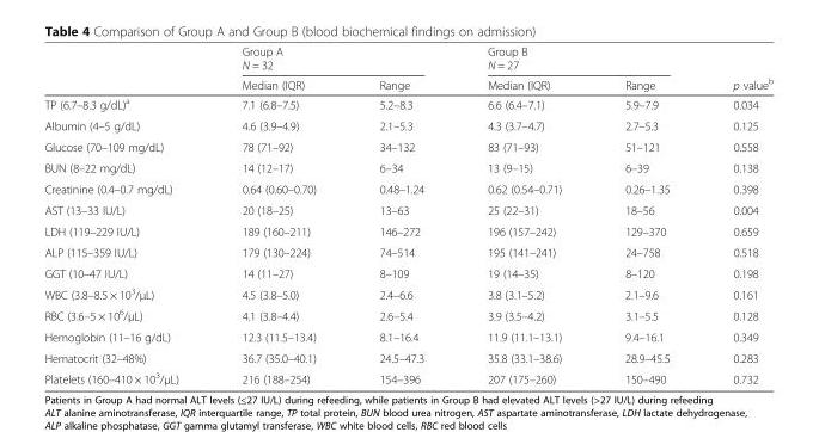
<table><thead><tr><td rowspan="3"></td><td rowspan="2" colspan="2">Group A N = 32</td><td rowspan="2" colspan="2">Group B N = 27</td><td rowspan="3">p value<sup>b</sup></td></tr><tr></tr><tr><td>Median (IQR)</td><td>Range</td><td>Median (IQR)</td><td>Range</td></tr></thead><tbody><tr><td>TP (6.7–8.3 g/dL)<sup>a</sup></td><td>7.1 (6.8–7.5)</td><td>5.2–8.3</td><td>6.6 (6.4–7.1)</td><td>5.9–7.9</td><td>0.034</td></tr><tr><td>Albumin (4–5 g/dL)</td><td>4.6 (3.9–4.9)</td><td>2.1–5.3</td><td>4.3 (3.7–4.7)</td><td>2.7–5.3</td><td>0.125</td></tr><tr><td>Glucose (70–109 mg/dL)</td><td>78 (71–92)</td><td>34–132</td><td>83 (71–93)</td><td>51–121</td><td>0.558</td></tr><tr><td>BUN (8–22 mg/dL)</td><td>14 (12–17)</td><td>6–34</td><td>13 (9–15)</td><td>6–39</td><td>0.138</td></tr><tr><td>Creatinine (0.4–0.7 mg/dL)</td><td>0.64 (0.60–0.70)</td><td>0.48–1.24</td><td>0.62 (0.54–0.71)</td><td>0.26–1.35</td><td>0.398</td></tr><tr><td>AST (13–33 IU/L)</td><td>20 (18–25)</td><td>13–63</td><td>25 (22–31)</td><td>18–56</td><td>0.004</td></tr><tr><td>LDH (119–229 IU/L)</td><td>189 (160–211)</td><td>146–272</td><td>196 (157–242)</td><td>129–370</td><td>0.659</td></tr><tr><td>ALP (115–359 IU/L)</td><td>179 (130–224)</td><td>74–514</td><td>195 (141–241)</td><td>24–758</td><td>0.518</td></tr><tr><td>GGT (10–47 IU/L)</td><td>14 (11–27)</td><td>8–109</td><td>19 (14–35)</td><td>8–120</td><td>0.198</td></tr><tr><td>WBC (3.8–8.5 × 10<sup>3</sup>/μL)</td><td>4.5 (3.8–5.0)</td><td>2.4–6.6</td><td>3.8 (3.1–5.2)</td><td>2.1–9.6</td><td>0.161</td></tr><tr><td>RBC (3.6–5 × 10<sup>6</sup>/μL)</td><td>4.1 (3.8–4.4)</td><td>2.6–5.4</td><td>3.9 (3.5–4.2)</td><td>3.1–5.5</td><td>0.128</td></tr><tr><td>Hemoglobin (11–16 g/dL)</td><td>12.3 (11.5–13.4)</td><td>8.1–16.4</td><td>11.9 (11.1–13.1)</td><td>9.4–16.1</td><td>0.349</td></tr><tr><td>Hematocrit (32–48%)</td><td>36.7 (35.0–40.1)</td><td>24.5–47.3</td><td>35.8 (33.1–38.6)</td><td>28.9–45.5</td><td>0.283</td></tr><tr><td>Platelets (160–410 × 10<sup>3</sup>/μL)</td><td>216 (188–254)</td><td>154–396</td><td>207 (175–260)</td><td>150–490</td><td>0.732</td></tr></tbody></table>